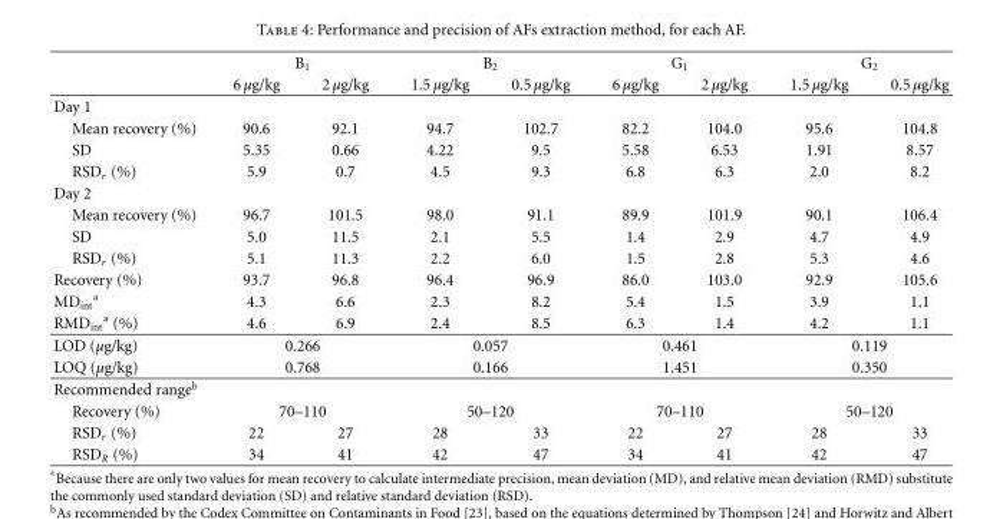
<table><thead><tr><td rowspan="2"></td><td colspan="2">B<sub>1</sub></td><td colspan="2">B<sub>2</sub></td><td colspan="2">G<sub>1</sub></td><td colspan="2">G<sub>2</sub></td></tr><tr><td>6 µg/kg</td><td>2 µg/kg</td><td>1.5 µg/kg</td><td>0.5 µg/kg</td><td>6 µg/kg</td><td>2 µg/kg</td><td>1.5 µg/kg</td><td>0.5 µg/kg</td></tr></thead><tbody><tr><td colspan="9">Day 1</td></tr><tr><td>Mean recovery (%)</td><td>90.6</td><td>92.1</td><td>94.7</td><td>102.7</td><td>82.2</td><td>104.0</td><td>95.6</td><td>104.8</td></tr><tr><td>SD</td><td>5.35</td><td>0.66</td><td>4.22</td><td>9.5</td><td>5.58</td><td>6.53</td><td>1.91</td><td>8.57</td></tr><tr><td>RSD<sub>r</sub> (%)</td><td>5.9</td><td>0.7</td><td>4.5</td><td>9.3</td><td>6.8</td><td>6.3</td><td>2.0</td><td>8.2</td></tr><tr><td colspan="9">Day 2</td></tr><tr><td>Mean recovery (%)</td><td>96.7</td><td>101.5</td><td>98.0</td><td>91.1</td><td>89.9</td><td>101.9</td><td>90.1</td><td>106.4</td></tr><tr><td>SD</td><td>5.0</td><td>11.5</td><td>2.1</td><td>5.5</td><td>1.4</td><td>2.9</td><td>4.7</td><td>4.9</td></tr><tr><td>RSD<sub>r</sub> (%)</td><td>5.1</td><td>11.3</td><td>2.2</td><td>6.0</td><td>1.5</td><td>2.8</td><td>5.3</td><td>4.6</td></tr><tr><td>Recovery (%)</td><td>93.7</td><td>96.8</td><td>96.4</td><td>96.9</td><td>86.0</td><td>103.0</td><td>92.9</td><td>105.6</td></tr><tr><td>MD<sub>int</sub> <sup>a</sup></td><td>4.3</td><td>6.6</td><td>2.3</td><td>8.2</td><td>5.4</td><td>1.5</td><td>3.9</td><td>1.1</td></tr><tr><td>RMD<sub>int</sub> <sup>a</sup> (%)</td><td>4.6</td><td>6.9</td><td>2.4</td><td>8.5</td><td>6.3</td><td>1.4</td><td>4.2</td><td>1.1</td></tr><tr><td>LOD (µg/kg)</td><td colspan="2">0.266</td><td colspan="2">0.057</td><td colspan="2">0.461</td><td colspan="2">0.119</td></tr><tr><td>LOQ (µg/kg)</td><td colspan="2">0.768</td><td colspan="2">0.166</td><td colspan="2">1.451</td><td colspan="2">0.350</td></tr><tr><td colspan="9">Recommended range<sup>b</sup></td></tr><tr><td>Recovery (%)</td><td colspan="2">70–110</td><td colspan="2">50–120</td><td colspan="2">70–110</td><td colspan="2">50–120</td></tr><tr><td>RSD<sub>r</sub> (%)</td><td>22</td><td>27</td><td>28</td><td>33</td><td>22</td><td>27</td><td>28</td><td>33</td></tr><tr><td>RSD<sub>R</sub> (%)</td><td>34</td><td>41</td><td>42</td><td>47</td><td>34</td><td>41</td><td>42</td><td>47</td></tr></tbody></table>